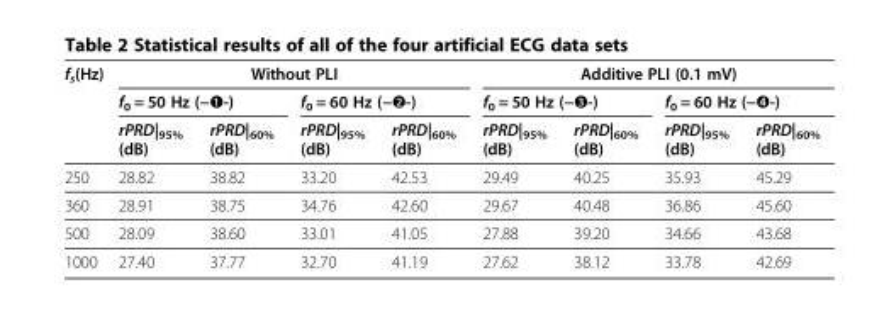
<table><thead><tr><td rowspan="3">f<sub>s</sub>(Hz)</td><td colspan="4">Without PLI</td><td colspan="4">Additive PLI (0.1 mV)</td></tr><tr><td colspan="2">f<sub>0</sub> = 50 Hz (−❶-)</td><td colspan="2">f<sub>0</sub> = 60 Hz (−❷-)</td><td colspan="2">f<sub>0</sub> = 50 Hz (−❸-)</td><td colspan="2">f<sub>0</sub> = 60 Hz (−➍-)</td></tr><tr><td>rPRD|<sub>95%</sub> (dB)</td><td>rPRD|<sub>60%</sub> (dB)</td><td>rPRD|<sub>95%</sub> (dB)</td><td>rPRD|<sub>60%</sub> (dB)</td><td>rPRD|<sub>95%</sub> (dB)</td><td>rPRD|<sub>60%</sub> (dB)</td><td>rPRD|<sub>95%</sub> (dB)</td><td>rPRD|<sub>60%</sub> (dB)</td></tr></thead><tbody><tr><td>250</td><td>28.82</td><td>38.82</td><td>33.20</td><td>42.53</td><td>29.49</td><td>40.25</td><td>35.93</td><td>45.29</td></tr><tr><td>360</td><td>28.91</td><td>38.75</td><td>34.76</td><td>42.60</td><td>29.67</td><td>40.48</td><td>36.86</td><td>45.60</td></tr><tr><td>500</td><td>28.09</td><td>38.60</td><td>33.01</td><td>41.05</td><td>27.88</td><td>39.20</td><td>34.66</td><td>43.68</td></tr><tr><td>1000</td><td>27.40</td><td>37.77</td><td>32.70</td><td>41.19</td><td>27.62</td><td>38.12</td><td>33.78</td><td>42.69</td></tr></tbody></table>